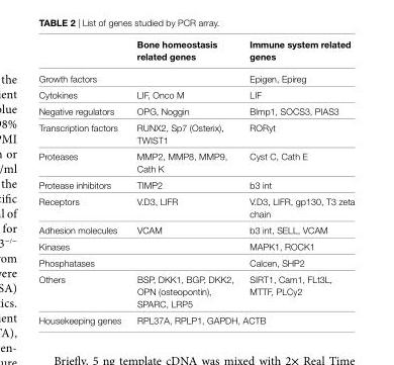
<table><thead><tr><td></td><td>Bone homeostasis related genes</td><td>immune system related genes</td></tr></thead><tbody><tr><td>Growth factors</td><td></td><td>Epigen, Epireg</td></tr><tr><td>Cytokines</td><td>LIF, Onco M</td><td>LIF</td></tr><tr><td>Negative regulators</td><td>OPG, Noggin</td><td>Blmp1, SOCS3, PIAS3</td></tr><tr><td>Transcription factors</td><td>RUNX2, Sp7 (Osterix), TWIST1</td><td>RORyt</td></tr><tr><td>Proteases</td><td>MMP2, MMP8, MMP9, Cath K</td><td>Cyst C, Cath E</td></tr><tr><td>Protease inhibitors</td><td>TIMP2</td><td>b3 int</td></tr><tr><td>Receptors</td><td>V.D3, LIFR</td><td>V.D3, LIFR, gp130, T3 zeta chain</td></tr><tr><td>Adhesion molecules</td><td>VCAM</td><td>b3 int, SELL, VCAM</td></tr><tr><td>Kinases</td><td></td><td>MAPK1, ROCK1</td></tr><tr><td>Phosphatases</td><td></td><td>Calcen, SHP2</td></tr><tr><td>Others</td><td>BSP, DKK1, BGP, DKK2, OPN (osteopontin), SPARC, LRP5</td><td>SIRT1, Cam1, FLt3L, MTTF, PLCy2</td></tr><tr><td>Housekeeping genes</td><td colspan="2">RPL37A, RPLP1, GAPDH, ACTB</td></tr></tbody></table>